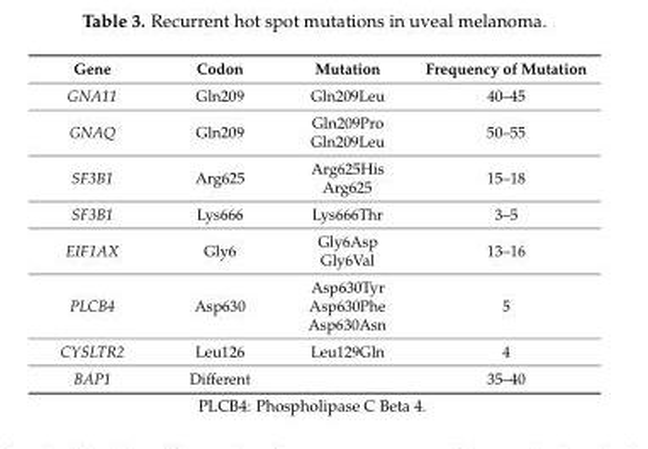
<table><thead><tr><td>Gene</td><td>Codon</td><td>Mutation</td><td>Frequency of Mutation</td></tr></thead><tbody><tr><td>GNA11</td><td>Gln209</td><td>Gln209Leu</td><td>40–45</td></tr><tr><td>GNAQ</td><td>Gln209</td><td>Gln209Pro Gln209Leu</td><td>50–55</td></tr><tr><td>SF3B1</td><td>Arg625</td><td>Arg625His Arg625</td><td>15–18</td></tr><tr><td>SF3B1</td><td>Lys666</td><td>Lys666Thr</td><td>3–5</td></tr><tr><td>EIF1AX</td><td>Gly6</td><td>Gly6Asp Gly6Val</td><td>13–16</td></tr><tr><td>PLCB4</td><td>Asp630</td><td>Asp630Tyr Asp630Phe Asp630Asn</td><td>5</td></tr><tr><td>CYSLTR2</td><td>Leu126</td><td>Leu129Gln</td><td>4</td></tr><tr><td>BAP1</td><td>Different</td><td></td><td>35–40</td></tr></tbody></table>